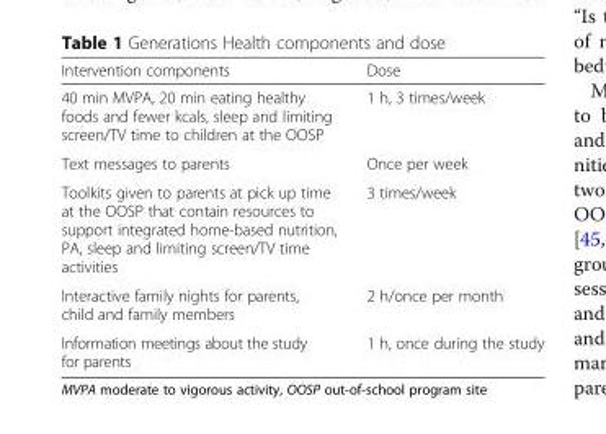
<table><thead><tr><td>Intervention components</td><td>Dose</td></tr></thead><tbody><tr><td>40 min MVPA, 20 min eating healthy foods and fewer kcals, sleep and limiting screen/TV time to children at the OOSP</td><td>1 h, 3 times/week</td></tr><tr><td>Text messages to parents</td><td>Once per week</td></tr><tr><td>Toolkits given to parents at pick up time at the OOSP that contain resources to support integrated home-based nutrition, PA, sleep and limiting screen/TV time activities</td><td>3 times/week</td></tr><tr><td>Interactive family nights for parents, child and family members</td><td>2 h/once per month</td></tr><tr><td>Information meetings about the study for parents</td><td>1 h, once during the study</td></tr></tbody></table>